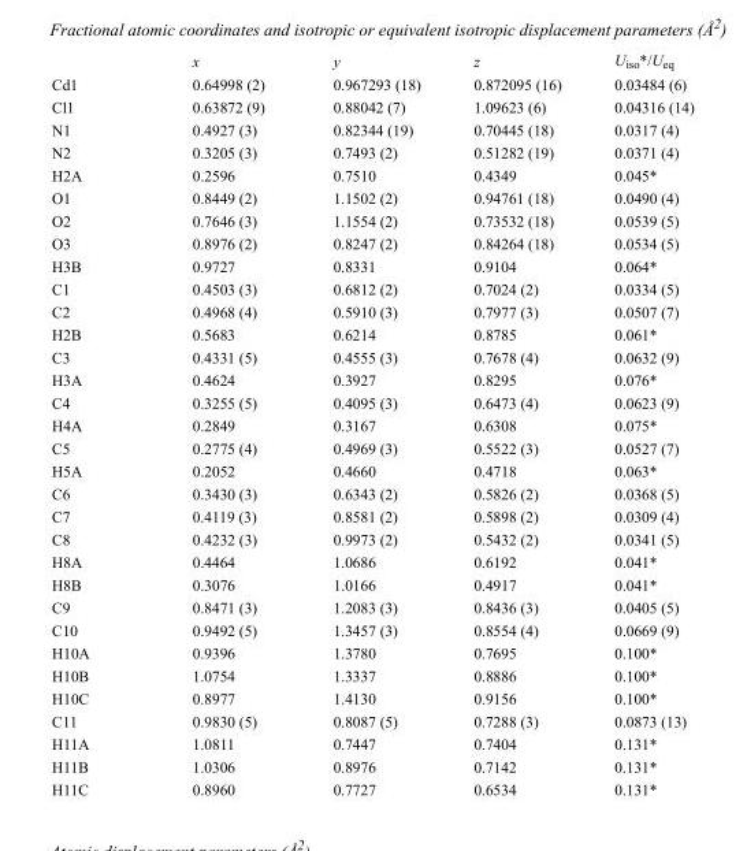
<table><thead><tr><td></td><td>x</td><td>y</td><td>z</td><td>U<sub>iso</sub>*/U<sub>eq</sub></td></tr></thead><tbody><tr><td>Cd1</td><td>0.64998 (2)</td><td>0.967293 (18)</td><td>0.872095 (16)</td><td>0.03484 (6)</td></tr><tr><td>Cl1</td><td>0.63872 (9)</td><td>0.88042 (7)</td><td>1.09623 (6)</td><td>0.04316 (14)</td></tr><tr><td>N1</td><td>0.4927 (3)</td><td>0.82344 (19)</td><td>0.70445 (18)</td><td>0.0317 (4)</td></tr><tr><td>N2</td><td>0.3205 (3)</td><td>0.7493 (2)</td><td>0.51282 (19)</td><td>0.0371 (4)</td></tr><tr><td>H2A</td><td>0.2596</td><td>0.7510</td><td>0.4349</td><td>0.045*</td></tr><tr><td>O1</td><td>0.8449 (2)</td><td>1.1502 (2)</td><td>0.94761 (18)</td><td>0.0490 (4)</td></tr><tr><td>O2</td><td>0.7646 (3)</td><td>1.1554 (2)</td><td>0.73532 (18)</td><td>0.0539 (5)</td></tr><tr><td>O3</td><td>0.8976 (2)</td><td>0.8247 (2)</td><td>0.84264 (18)</td><td>0.0534 (5)</td></tr><tr><td>H3B</td><td>0.9727</td><td>0.8331</td><td>0.9104</td><td>0.064*</td></tr><tr><td>C1</td><td>0.4503 (3)</td><td>0.6812 (2)</td><td>0.7024 (2)</td><td>0.0334 (5)</td></tr><tr><td>C2</td><td>0.4968 (4)</td><td>0.5910 (3)</td><td>0.7977 (3)</td><td>0.0507 (7)</td></tr><tr><td>H2B</td><td>0.5683</td><td>0.6214</td><td>0.8785</td><td>0.061*</td></tr><tr><td>C3</td><td>0.4331 (5)</td><td>0.4555 (3)</td><td>0.7678 (4)</td><td>0.0632 (9)</td></tr><tr><td>H3A</td><td>0.4624</td><td>0.3927</td><td>0.8295</td><td>0.076*</td></tr><tr><td>C4</td><td>0.3255 (5)</td><td>0.4095 (3)</td><td>0.6473 (4)</td><td>0.0623 (9)</td></tr><tr><td>H4A</td><td>0.2849</td><td>0.3167</td><td>0.6308</td><td>0.075*</td></tr><tr><td>C5</td><td>0.2775 (4)</td><td>0.4969 (3)</td><td>0.5522 (3)</td><td>0.0527 (7)</td></tr><tr><td>H5A</td><td>0.2052</td><td>0.4660</td><td>0.4718</td><td>0.063*</td></tr><tr><td>C6</td><td>0.3430 (3)</td><td>0.6343 (2)</td><td>0.5826 (2)</td><td>0.0368 (5)</td></tr><tr><td>C7</td><td>0.4119 (3)</td><td>0.8581 (2)</td><td>0.5898 (2)</td><td>0.0309 (4)</td></tr><tr><td>C8</td><td>0.4232 (3)</td><td>0.9973 (2)</td><td>0.5432 (2)</td><td>0.0341 (5)</td></tr><tr><td>H8A</td><td>0.4464</td><td>1.0686</td><td>0.6192</td><td>0.041*</td></tr><tr><td>H8B</td><td>0.3076</td><td>1.0166</td><td>0.4917</td><td>0.041*</td></tr><tr><td>C9</td><td>0.8471 (3)</td><td>1.2083 (3)</td><td>0.8436 (3)</td><td>0.0405 (5)</td></tr><tr><td>C10</td><td>0.9492 (5)</td><td>1.3457 (3)</td><td>0.8554 (4)</td><td>0.0669 (9)</td></tr><tr><td>H10A</td><td>0.9396</td><td>1.3780</td><td>0.7695</td><td>0.100*</td></tr><tr><td>H10B</td><td>1.0754</td><td>1.3337</td><td>0.8886</td><td>0.100*</td></tr><tr><td>H10C</td><td>0.8977</td><td>1.4130</td><td>0.9156</td><td>0.100*</td></tr><tr><td>C11</td><td>0.9830 (5)</td><td>0.8087 (5)</td><td>0.7288 (3)</td><td>0.0873 (13)</td></tr><tr><td>H11A</td><td>1.0811</td><td>0.7447</td><td>0.7404</td><td>0.131*</td></tr><tr><td>H11B</td><td>1.0306</td><td>0.8976</td><td>0.7142</td><td>0.131*</td></tr><tr><td>H11C</td><td>0.8960</td><td>0.7727</td><td>0.6534</td><td>0.131*</td></tr></tbody></table>